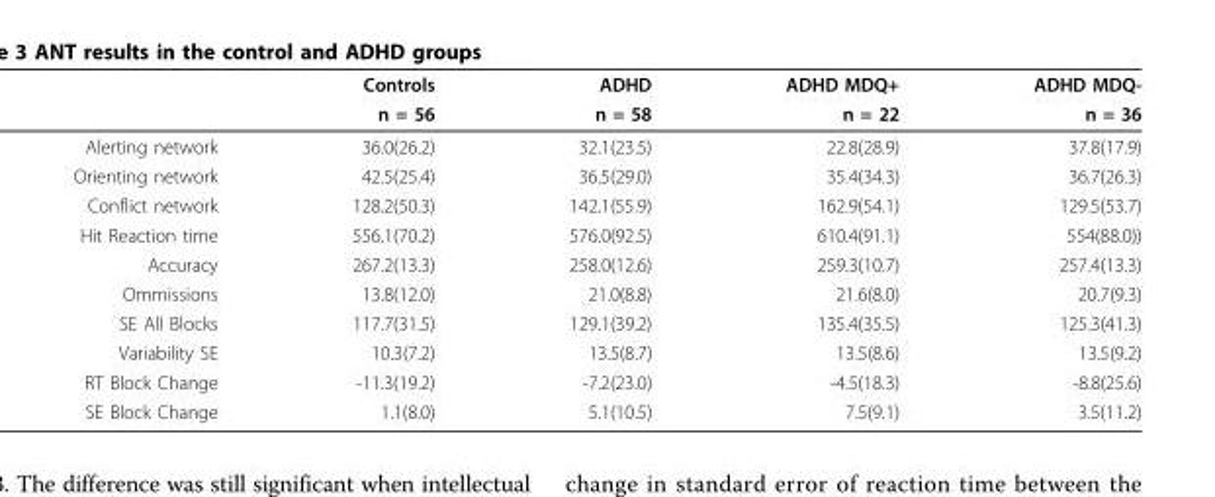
<table><thead><tr><td rowspan="2"></td><td rowspan="2">Controls n = 56</td><td rowspan="2">ADHD n = 58</td><td rowspan="2">ADHD MDQ+ n = 22</td><td rowspan="2">ADHD MDQ- n = 36</td></tr><tr></tr></thead><tbody><tr><td>Alerting network</td><td>36.0(26.2)</td><td>32.1(23.5)</td><td>22.8(28.9)</td><td>37.8(17.9)</td></tr><tr><td>Orienting network</td><td>42.5(25.4)</td><td>36.5(29.0)</td><td>35.4(34.3)</td><td>36.7(26.3)</td></tr><tr><td>Conflict network</td><td>128.2(50.3)</td><td>142.1(55.9)</td><td>162.9(54.1)</td><td>129.5(53.7)</td></tr><tr><td>Hit Reaction time</td><td>556.1(70.2)</td><td>576.0(92.5)</td><td>610.4(91.1)</td><td>554(88.0))</td></tr><tr><td>Accuracy</td><td>267.2(13.3)</td><td>258.0(12.6)</td><td>259.3(10.7)</td><td>257.4(13.3)</td></tr><tr><td>Ommissions</td><td>13.8(12.0)</td><td>21.0(8.8)</td><td>21.6(8.0)</td><td>20.7(9.3)</td></tr><tr><td>SE All Blocks</td><td>117.7(31.5)</td><td>129.1(39.2)</td><td>135.4(35.5)</td><td>125.3(41.3)</td></tr><tr><td>Variability SE</td><td>10.3(7.2)</td><td>13.5(8.7)</td><td>13.5(8.6)</td><td>13.5(9.2)</td></tr><tr><td>RT Block Change</td><td>-11.3(19.2)</td><td>-7.2(23.0)</td><td>-4.5(18.3)</td><td>-8.8(25.6)</td></tr><tr><td>SE Block Change</td><td>1.1(8.0)</td><td>5.1(10.5)</td><td>7.5(9.1)</td><td>3.5(11.2)</td></tr></tbody></table>